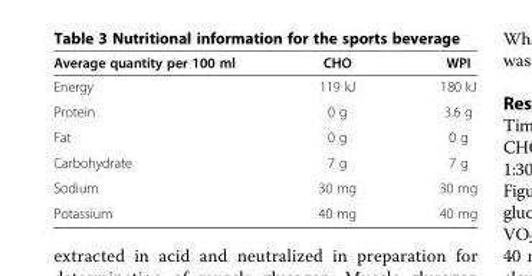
<table><thead><tr><td>Average quantity per 100 ml</td><td>CHO</td><td>WPI</td></tr></thead><tbody><tr><td>Energy</td><td>119 kJ</td><td>180 kJ</td></tr><tr><td>Protein</td><td>0 g</td><td>3.6 g</td></tr><tr><td>Fat</td><td>0 g</td><td>0 g</td></tr><tr><td>Carbohydrate</td><td>7 g</td><td>7 g</td></tr><tr><td>Sodium</td><td>30 mg</td><td>30 mg</td></tr><tr><td>Potassium</td><td>40 mg</td><td>40 mg</td></tr></tbody></table>